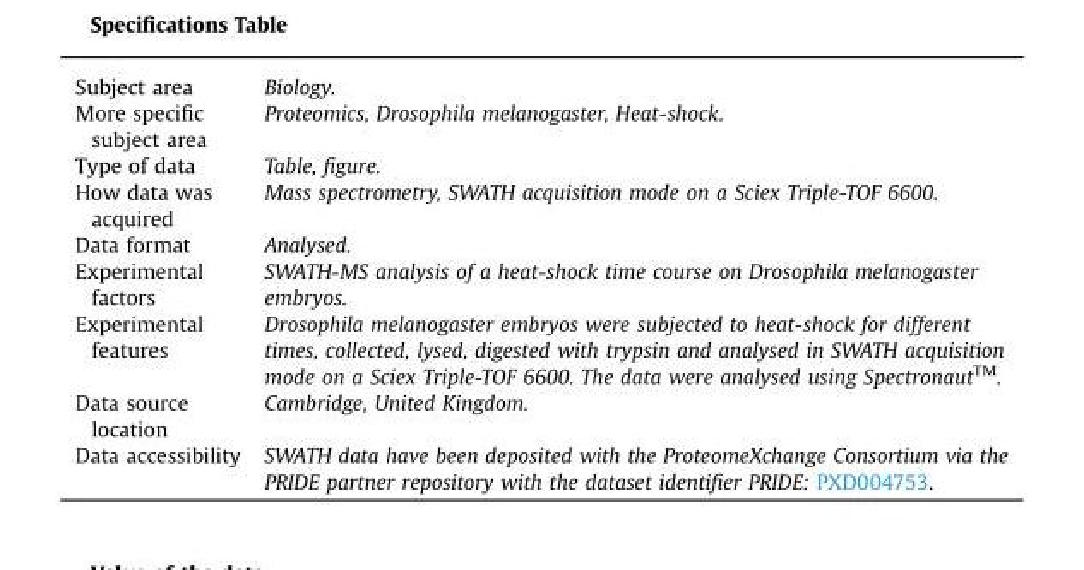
<table><tbody><tr><td>Subject area</td><td>Biology.</td></tr><tr><td>More specific subject area</td><td>Proteomics, Drosophila melanogaster, Heat-shock.</td></tr><tr><td>Type of data</td><td>Table, figure.</td></tr><tr><td>How data was acquired</td><td>Mass spectrometry, SWATH acquisition mode on a Sciex Triple-TOF 6600.</td></tr><tr><td>Data format</td><td>Analysed.</td></tr><tr><td>Experimental factors</td><td>SWATH-MS analysis of a heat-shock time course on Drosophila melanogaster embryos.</td></tr><tr><td>Experimental features</td><td>Drosophila melanogaster embryos were subjected to heat-shock for different times, collected, lysed, digested with trypsin and analysed in SWATH acquisition mode on a Sciex Triple-TOF 6600. The data were analysed using Spectronaut<sup>TM</sup>.</td></tr><tr><td>Data source location</td><td>Cambridge, United Kingdom.</td></tr><tr><td>Data accessibility</td><td>SWATH data have been deposited with the ProteomeXchange Consortium via the PRIDE partner repository with the dataset identifier PRIDE: PXD004753.</td></tr></tbody></table>